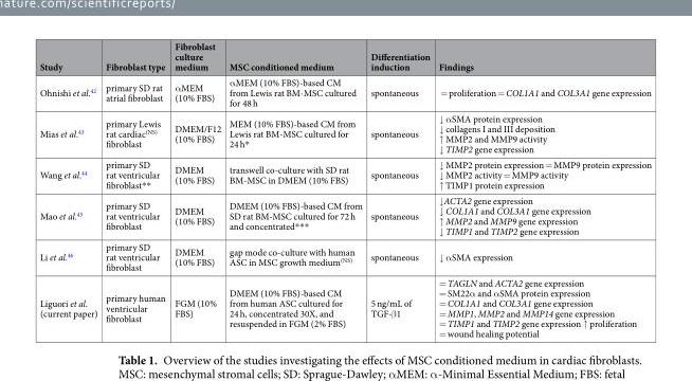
<table><thead><tr><td>Study</td><td>Fibroblast type</td><td>Fibroblast culture medium</td><td>MSC conditioned medium</td><td>Differentiation induction</td><td>Findings</td></tr></thead><tbody><tr><td>Ohnishi et al.<sup>42</sup></td><td>primary SD rat atrial fibroblast</td><td>αMEM (10% FBS)</td><td>αMEM (10% FBS)-based CM from Lewis rat BM-MSC cultured for 48 h</td><td>spontaneous</td><td>= proliferation = COL1A1 and COL3A1 gene expression</td></tr><tr><td>Mias et al.<sup>43</sup></td><td>primary Lewis rat cardiac<sup>(NS)</sup> fibroblast</td><td>DMEM/F12 (10% FBS)</td><td>MEM (10% FBS)-based CM from Lewis rat BM-MSC cultured for 24 h*</td><td>spontaneous</td><td>↓ αSMA protein expression ↓ collagens I and III deposition ↑ MMP2 and MMP9 activity ↓ TIMP2 gene expression</td></tr><tr><td>Wang et al.<sup>44</sup></td><td>primary SD rat ventricular fibroblast**</td><td>DMEM (10% FBS)</td><td>transwell co-culture with SD rat BM-MSC in DMEM (10% FBS)</td><td>spontaneous</td><td>↓ MMP2 protein expression = MMP9 protein expression ↓ MMP2 activity = MMP9 activity ↑ TIMP1 protein expression</td></tr><tr><td>Mao et al.<sup>45</sup></td><td>primary SD rat ventricular fibroblast</td><td>DMEM (10% FBS)</td><td>DMEM (10% FBS)-based CM from SD rat BM-MSC cultured for 72 h and concentrated***</td><td>spontaneous</td><td>↓ACTA2 gene expression ↓ COL1A1 and COL3A1 gene expression ↑ MMP2 and MMP9 gene expression ↓ TIMP1 and TIMP2 gene expression</td></tr><tr><td>Li et al.<sup>46</sup></td><td>primary SD rat ventricular fibroblast</td><td>DMEM (10% FBS)</td><td>gap mode co-culture with human ASC in MSC growth medium<sup>(NS)</sup></td><td>spontaneous</td><td>↓ αSMA expression</td></tr><tr><td>Liguori et al. (current paper)</td><td>primary human ventricular fibroblast</td><td>FGM (10% FBS)</td><td>DMEM (10% FBS)-based CM from human ASC cultured for 24 h, concentrated 30X, and resuspended in FGM (2% FBS)</td><td>5 ng/mL of TGF-β1</td><td>= TAGLN and ACTA2 gene expression = SM22α and αSMA protein expression = COL1A1 and COL3A1 gene expression = MMP1, MMP2 and MMP14 gene expression = TIMP1 and TIMP2 gene expression ↑ proliferation = wound healing potential</td></tr></tbody></table>